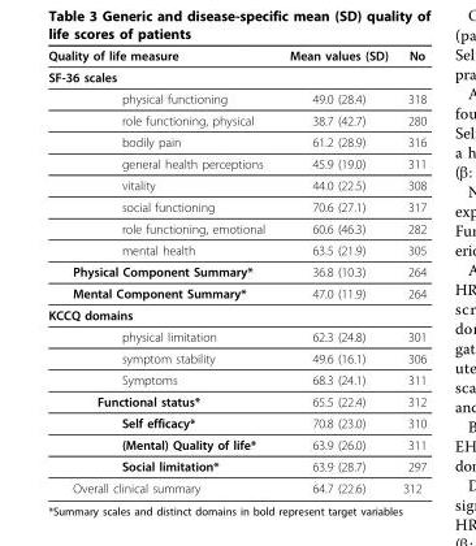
<table><thead><tr><td>Quality of life measure</td><td>Mean values (SD)</td><td>No</td></tr></thead><tbody><tr><td colspan="3">SF-36 scales</td></tr><tr><td>physical functioning</td><td>49.0 (28.4)</td><td>318</td></tr><tr><td>role functioning, physical</td><td>38.7 (42.7)</td><td>280</td></tr><tr><td>bodily pain</td><td>61.2 (28.9)</td><td>316</td></tr><tr><td>general health perceptions</td><td>45.9 (19.0)</td><td>311</td></tr><tr><td>vitality</td><td>44.0 (22.5)</td><td>308</td></tr><tr><td>social functioning</td><td>70.6 (27.1)</td><td>317</td></tr><tr><td>role functioning, emotional</td><td>60.6 (46.3)</td><td>282</td></tr><tr><td>mental health</td><td>63.5 (21.9)</td><td>305</td></tr><tr><td>Physical Component Summary*</td><td>36.8 (10.3)</td><td>264</td></tr><tr><td>Mental Component Summary*</td><td>47.0 (11.9)</td><td>264</td></tr><tr><td colspan="3">KCCQ domains</td></tr><tr><td>physical limitation</td><td>62.3 (24.8)</td><td>301</td></tr><tr><td>symptom stability</td><td>49.6 (16.1)</td><td>306</td></tr><tr><td>Symptoms</td><td>68.3 (24.1)</td><td>311</td></tr><tr><td>Functional status*</td><td>65.5 (22.4)</td><td>312</td></tr><tr><td>Self efficacy*</td><td>70.8 (23.0)</td><td>310</td></tr><tr><td>(Mental) Quality of life*</td><td>63.9 (26.0)</td><td>311</td></tr><tr><td>Social limitation*</td><td>63.9 (28.7)</td><td>297</td></tr><tr><td>Overall clinical summary</td><td>64.7 (22.6)</td><td>312</td></tr></tbody></table>